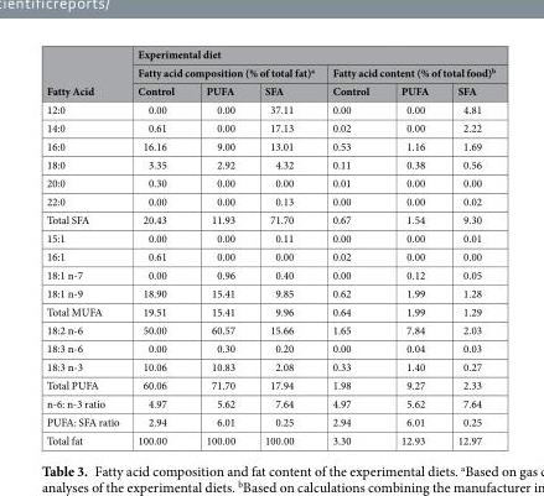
<table><thead><tr><td rowspan="3">Fatty Acid</td><td colspan="6">Experimental diet</td></tr><tr><td colspan="3">Fatty acid composition (% of total fat)<sup>a</sup></td><td colspan="3">Fatty acid content (% of total food)<sup>b</sup></td></tr><tr><td>Control</td><td>PUFA</td><td>SFA</td><td>Control</td><td>PUFA</td><td>SFA</td></tr></thead><tbody><tr><td>12:0</td><td>0.00</td><td>0.00</td><td>37.11</td><td>0.00</td><td>0.00</td><td>4.81</td></tr><tr><td>14:0</td><td>0.61</td><td>0.00</td><td>17.13</td><td>0.02</td><td>0.00</td><td>2.22</td></tr><tr><td>16:0</td><td>16.16</td><td>9.00</td><td>13.01</td><td>0.53</td><td>1.16</td><td>1.69</td></tr><tr><td>18:0</td><td>3.35</td><td>2.92</td><td>4.32</td><td>0.11</td><td>0.38</td><td>0.56</td></tr><tr><td>20:0</td><td>0.30</td><td>0.00</td><td>0.00</td><td>0.01</td><td>0.00</td><td>0.00</td></tr><tr><td>22:0</td><td>0.00</td><td>0.00</td><td>0.13</td><td>0.00</td><td>0.00</td><td>0.02</td></tr><tr><td>Total SFA</td><td>20.43</td><td>11.93</td><td>71.70</td><td>0.67</td><td>1.54</td><td>9.30</td></tr><tr><td>15:1</td><td>0.00</td><td>0.00</td><td>0.11</td><td>0.00</td><td>0.00</td><td>0.01</td></tr><tr><td>16:1</td><td>0.61</td><td>0.00</td><td>0.00</td><td>0.02</td><td>0.00</td><td>0.00</td></tr><tr><td>18:1 n-7</td><td>0.00</td><td>0.96</td><td>0.40</td><td>0.00</td><td>0.12</td><td>0.05</td></tr><tr><td>18:1 n-9</td><td>18.90</td><td>15.41</td><td>9.85</td><td>0.62</td><td>1.99</td><td>1.28</td></tr><tr><td>Total MUFA</td><td>19.51</td><td>15.41</td><td>9.96</td><td>0.64</td><td>1.99</td><td>1.29</td></tr><tr><td>18:2 n-6</td><td>50.00</td><td>60.57</td><td>15.66</td><td>1.65</td><td>7.84</td><td>2.03</td></tr><tr><td>18:3 n-6</td><td>0.00</td><td>0.30</td><td>0.20</td><td>0.00</td><td>0.04</td><td>0.03</td></tr><tr><td>18:3 n-3</td><td>10.06</td><td>10.83</td><td>2.08</td><td>0.33</td><td>1.40</td><td>0.27</td></tr><tr><td>Total PUFA</td><td>60.06</td><td>71.70</td><td>17.94</td><td>1.98</td><td>9.27</td><td>2.33</td></tr><tr><td>n-6: n-3 ratio</td><td>4.97</td><td>5.62</td><td>7.64</td><td>4.97</td><td>5.62</td><td>7.64</td></tr><tr><td>PUFA: SFA ratio</td><td>2.94</td><td>6.01</td><td>0.25</td><td>2.94</td><td>6.01</td><td>0.25</td></tr><tr><td>Total fat</td><td>100.00</td><td>100.00</td><td>100.00</td><td>3.30</td><td>12.93</td><td>12.97</td></tr></tbody></table>